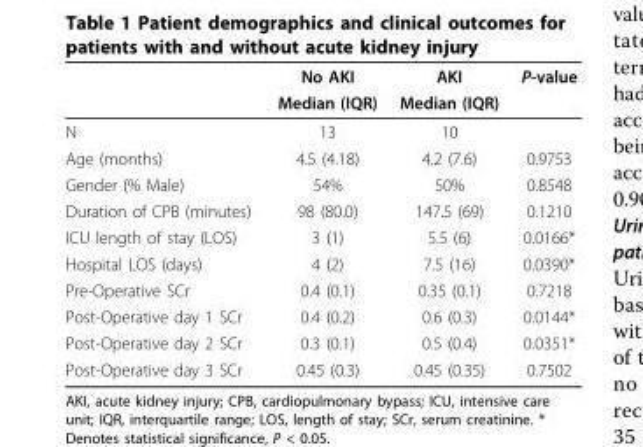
<table><thead><tr><td rowspan="2"></td><td rowspan="2">No AKI Median (IQR)</td><td rowspan="2">AKI Median (IQR)</td><td rowspan="2">P-value</td></tr><tr></tr></thead><tbody><tr><td>N</td><td>13</td><td>10</td><td></td></tr><tr><td>Age (months)</td><td>4.5 (4.18)</td><td>4.2 (7.6)</td><td>0.9753</td></tr><tr><td>Gender (% Male)</td><td>54%</td><td>50%</td><td>0.8548</td></tr><tr><td>Duration of CPB (minutes)</td><td>98 (80.0)</td><td>147.5 (69)</td><td>0.1210</td></tr><tr><td>ICU length of stay (LOS)</td><td>3 (1)</td><td>5.5 (6)</td><td>0.0166*</td></tr><tr><td>Hospital LOS (days)</td><td>4 (2)</td><td>7.5 (16)</td><td>0.0390*</td></tr><tr><td>Pre-Operative SCr</td><td>0.4 (0.1)</td><td>0.35 (0.1)</td><td>0.7218</td></tr><tr><td>Post-Operative day 1 SCr</td><td>0.4 (0.2)</td><td>0.6 (0.3)</td><td>0.0144*</td></tr><tr><td>Post-Operative day 2 SCr</td><td>0.3 (0.1)</td><td>0.5 (0.4)</td><td>0.0351*</td></tr><tr><td>Post-Operative day 3 SCr</td><td>0.45 (0.3)</td><td>0.45 (0.35)</td><td>0.7502</td></tr></tbody></table>